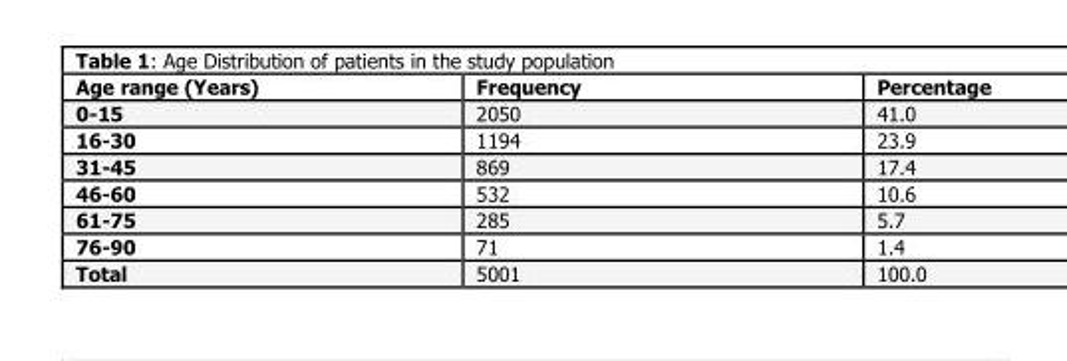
<table><thead><tr><td>Age range (Years)</td><td>Frequency</td><td>Percentage</td></tr></thead><tbody><tr><td>0-15</td><td>2050</td><td>41.0</td></tr><tr><td>16-30</td><td>1194</td><td>23.9</td></tr><tr><td>31-45</td><td>869</td><td>17.4</td></tr><tr><td>46-60</td><td>532</td><td>10.6</td></tr><tr><td>61-75</td><td>285</td><td>5.7</td></tr><tr><td>76-90</td><td>71</td><td>1.4</td></tr><tr><td>Total</td><td>5001</td><td>100.0</td></tr></tbody></table>